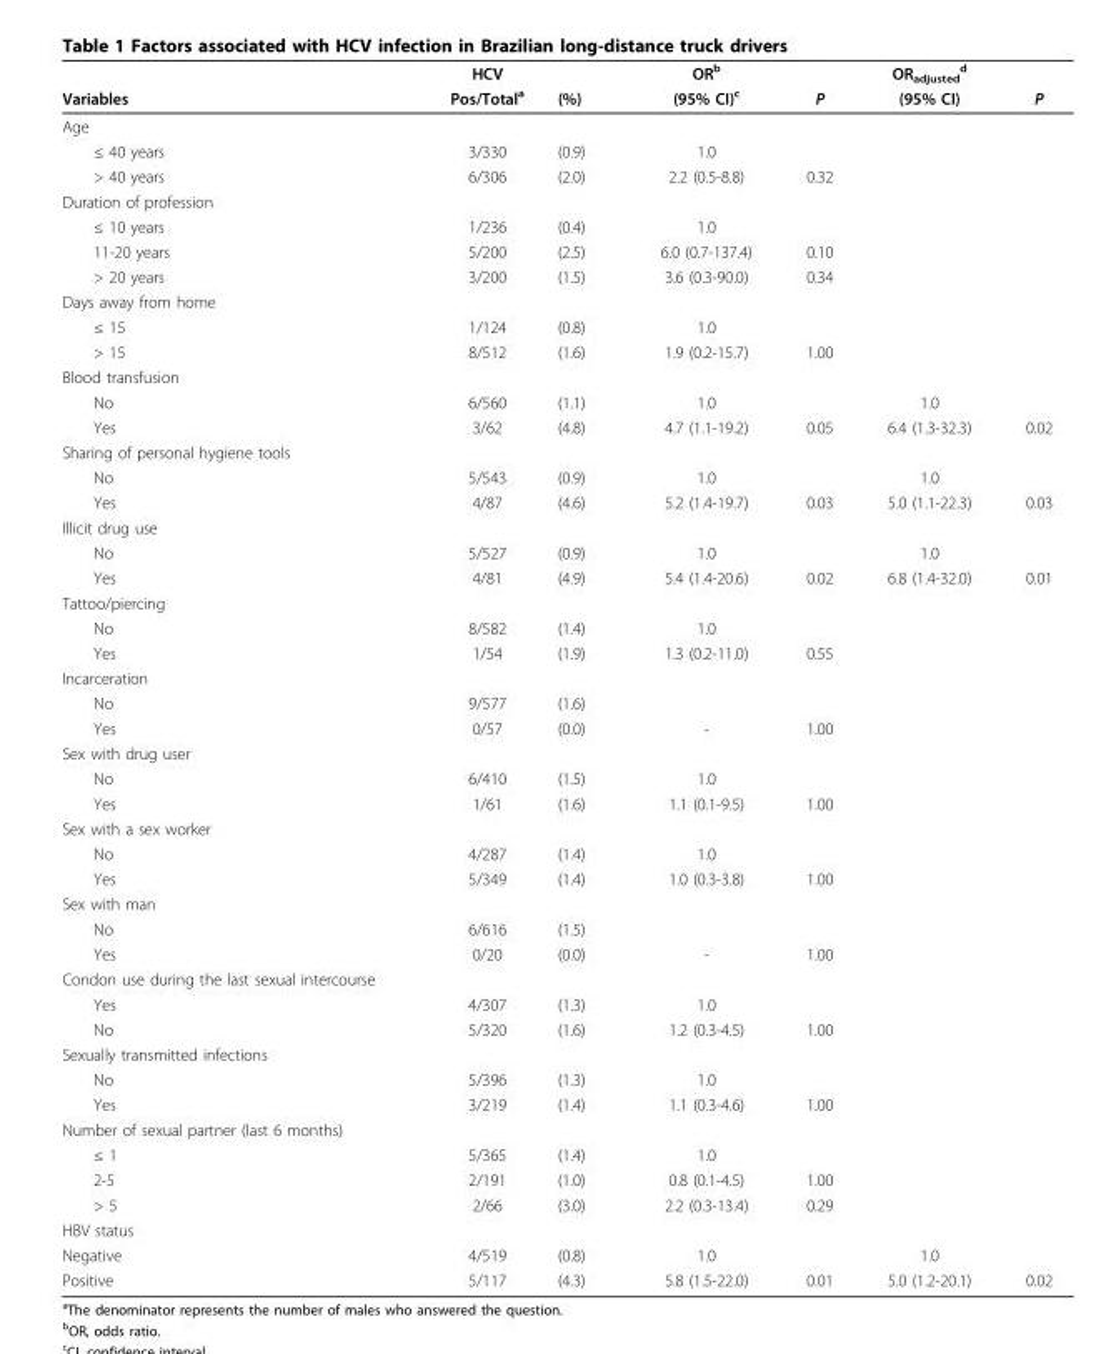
<table><thead><tr><td rowspan="2">Variables</td><td rowspan="2">HCV Pos/Total<sup>a</sup></td><td rowspan="2">(%)</td><td rowspan="2">OR<sup>b</sup> (95% CI)<sup>c</sup></td><td rowspan="2">P</td><td rowspan="2">OR<sub>adjusted</sub> <sup>d</sup> (95% CI)</td><td rowspan="2">P</td></tr><tr></tr></thead><tbody><tr><td colspan="7">Age</td></tr><tr><td>≤ 40 years</td><td>3/330</td><td>(0.9)</td><td>1.0</td><td></td><td></td><td></td></tr><tr><td>&gt; 40 years</td><td>6/306</td><td>(2.0)</td><td>2.2 (0.5-8.8)</td><td>0.32</td><td></td><td></td></tr><tr><td colspan="7">Duration of profession</td></tr><tr><td>≤ 10 years</td><td>1/236</td><td>(0.4)</td><td>1.0</td><td></td><td></td><td></td></tr><tr><td>11-20 years</td><td>5/200</td><td>(2.5)</td><td>6.0 (0.7-137.4)</td><td>0.10</td><td></td><td></td></tr><tr><td>&gt; 20 years</td><td>3/200</td><td>(1.5)</td><td>3.6 (0.3-90.0)</td><td>0.34</td><td></td><td></td></tr><tr><td colspan="7">Days away from home</td></tr><tr><td>≤ 15</td><td>1/124</td><td>(0.8)</td><td>1.0</td><td></td><td></td><td></td></tr><tr><td>&gt; 15</td><td>8/512</td><td>(1.6)</td><td>1.9 (0.2-15.7)</td><td>1.00</td><td></td><td></td></tr><tr><td colspan="7">Blood transfusion</td></tr><tr><td>No</td><td>6/560</td><td>(1.1)</td><td>1.0</td><td></td><td>1.0</td><td></td></tr><tr><td>Yes</td><td>3/62</td><td>(4.8)</td><td>4.7 (1.1-19.2)</td><td>0.05</td><td>6.4 (1.3-32.3)</td><td>0.02</td></tr><tr><td colspan="7">Sharing of personal hygiene tools</td></tr><tr><td>No</td><td>5/543</td><td>(0.9)</td><td>1.0</td><td></td><td>1.0</td><td></td></tr><tr><td>Yes</td><td>4/87</td><td>(4.6)</td><td>5.2 (1.4-19.7)</td><td>0.03</td><td>5.0 (1.1-22.3)</td><td>0.03</td></tr><tr><td colspan="7">Illicit drug use</td></tr><tr><td>No</td><td>5/527</td><td>(0.9)</td><td>1.0</td><td></td><td>1.0</td><td></td></tr><tr><td>Yes</td><td>4/81</td><td>(4.9)</td><td>5.4 (1.4-20.6)</td><td>0.02</td><td>6.8 (1.4-32.0)</td><td>0.01</td></tr><tr><td colspan="7">Tattoo/piercing</td></tr><tr><td>No</td><td>8/582</td><td>(1.4)</td><td>1.0</td><td></td><td></td><td></td></tr><tr><td>Yes</td><td>1/54</td><td>(1.9)</td><td>1.3 (0.2-11.0)</td><td>0.55</td><td></td><td></td></tr><tr><td colspan="7">Incarceration</td></tr><tr><td>No</td><td>9/577</td><td>(1.6)</td><td></td><td></td><td></td><td></td></tr><tr><td>Yes</td><td>0/57</td><td>(0.0)</td><td>-</td><td>1.00</td><td></td><td></td></tr><tr><td colspan="7">Sex with drug user</td></tr><tr><td>No</td><td>6/410</td><td>(1.5)</td><td>1.0</td><td></td><td></td><td></td></tr><tr><td>Yes</td><td>1/61</td><td>(1.6)</td><td>1.1 (0.1-9.5)</td><td>1.00</td><td></td><td></td></tr><tr><td colspan="7">Sex with a sex worker</td></tr><tr><td>No</td><td>4/287</td><td>(1.4)</td><td>1.0</td><td></td><td></td><td></td></tr><tr><td>Yes</td><td>5/349</td><td>(1.4)</td><td>1.0 (0.3-3.8)</td><td>1.00</td><td></td><td></td></tr><tr><td colspan="7">Sex with man</td></tr><tr><td>No</td><td>6/616</td><td>(1.5)</td><td></td><td></td><td></td><td></td></tr><tr><td>Yes</td><td>0/20</td><td>(0.0)</td><td>-</td><td>1.00</td><td></td><td></td></tr><tr><td colspan="7">Condon use during the last sexual intercourse</td></tr><tr><td>Yes</td><td>4/307</td><td>(1.3)</td><td>1.0</td><td></td><td></td><td></td></tr><tr><td>No</td><td>5/320</td><td>(1.6)</td><td>1.2 (0.3-4.5)</td><td>1.00</td><td></td><td></td></tr><tr><td colspan="7">Sexually transmitted infections</td></tr><tr><td>No</td><td>5/396</td><td>(1.3)</td><td>1.0</td><td></td><td></td><td></td></tr><tr><td>Yes</td><td>3/219</td><td>(1.4)</td><td>1.1 (0.3-4.6)</td><td>1.00</td><td></td><td></td></tr><tr><td colspan="7">Number of sexual partner (last 6 months)</td></tr><tr><td>≤ 1</td><td>5/365</td><td>(1.4)</td><td>1.0</td><td></td><td></td><td></td></tr><tr><td>2-5</td><td>2/191</td><td>(1.0)</td><td>0.8 (0.1-4.5)</td><td>1.00</td><td></td><td></td></tr><tr><td>&gt; 5</td><td>2/66</td><td>(3.0)</td><td>2.2 (0.3-13.4)</td><td>0.29</td><td></td><td></td></tr><tr><td colspan="7">HBV status</td></tr><tr><td>Negative</td><td>4/519</td><td>(0.8)</td><td>1.0</td><td></td><td>1.0</td><td></td></tr><tr><td>Positive</td><td>5/117</td><td>(4.3)</td><td>5.8 (1.5-22.0)</td><td>0.01</td><td>5.0 (1.2-20.1)</td><td>0.02</td></tr></tbody></table>